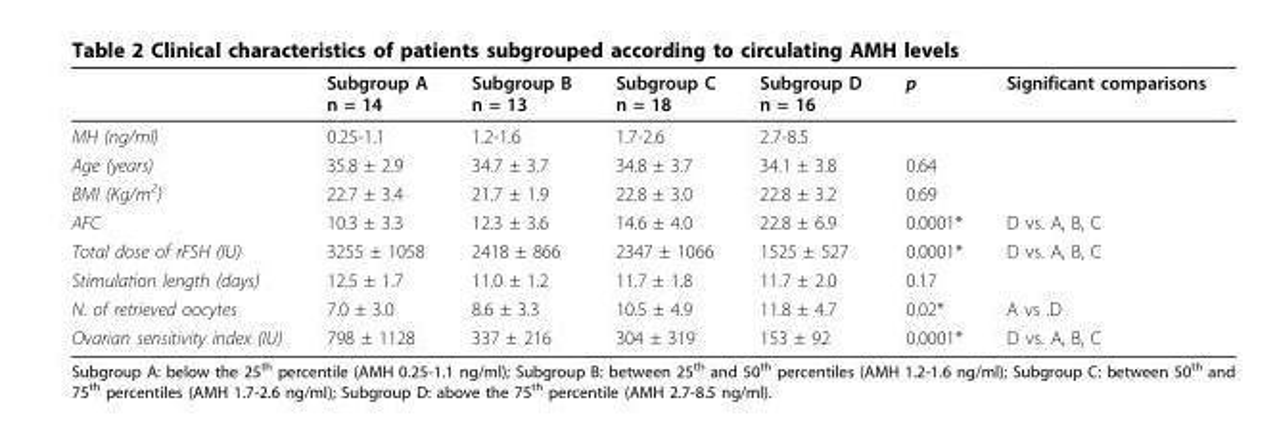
<table><thead><tr><td></td><td>Subgroup A n = 14</td><td>Subgroup B n = 13</td><td>Subgroup C n = 18</td><td>Subgroup D n = 16</td><td>p</td><td>Significant comparisons</td></tr></thead><tbody><tr><td>MH (ng/ml)</td><td>0.25-1.1</td><td>1.2-1.6</td><td>1.7-2.6</td><td>2.7-8.5</td><td></td><td></td></tr><tr><td>Age (years)</td><td>35.8 ± 2.9</td><td>34.7 ± 3.7</td><td>34.8 ± 3.7</td><td>34.1 ± 3.8</td><td>0.64</td><td></td></tr><tr><td>BMI (Kg/m<sup>2</sup>)</td><td>22.7 ± 3.4</td><td>21.7 ± 1.9</td><td>22.8 ± 3.0</td><td>22.8 ± 3.2</td><td>0.69</td><td></td></tr><tr><td>AFC</td><td>10.3 ± 3.3</td><td>12.3 ± 3.6</td><td>14.6 ± 4.0</td><td>22.8 ± 6.9</td><td>0.0001*</td><td>D vs. A, B, C</td></tr><tr><td>Total dose of rFSH (IU)</td><td>3255 ± 1058</td><td>2418 ± 866</td><td>2347 ± 1066</td><td>1525 ± 527</td><td>0.0001*</td><td>D vs. A, B, C</td></tr><tr><td>Stimulation length (days)</td><td>12.5 ± 1.7</td><td>11.0 ± 1.2</td><td>11.7 ± 1.8</td><td>11.7 ± 2.0</td><td>0.17</td><td></td></tr><tr><td>N. of retrieved oocytes</td><td>7.0 ± 3.0</td><td>8.6 ± 3.3</td><td>10.5 ± 4.9</td><td>11.8 ± 4.7</td><td>0.02*</td><td>A vs .D</td></tr><tr><td>Ovarian sensitivity index (IU)</td><td>798 ± 1128</td><td>337 ± 216</td><td>304 ± 319</td><td>153 ± 92</td><td>0.0001*</td><td>D vs. A, B, C</td></tr></tbody></table>